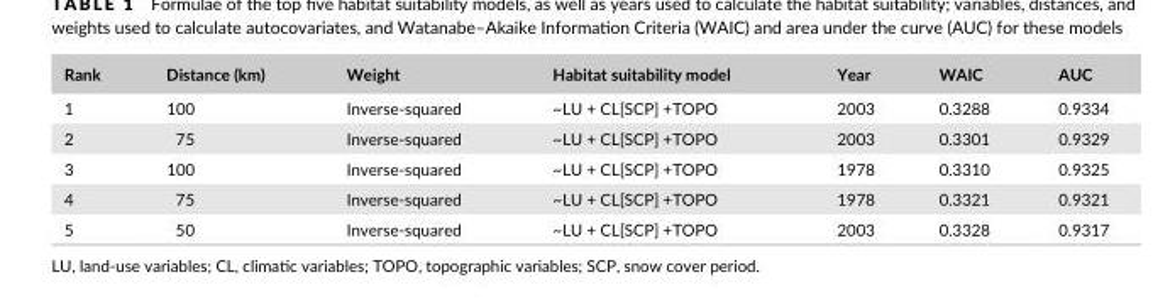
<table><thead><tr><td>Rank</td><td>Distance (km)</td><td>Weight</td><td>Habitat suitability model</td><td>Year</td><td>WAIC</td><td>AUC</td></tr></thead><tbody><tr><td>1</td><td>100</td><td>Inverse- squared</td><td>~LU + CL[SCP] +TOPO</td><td>2003</td><td>0.3288</td><td>0.9334</td></tr><tr><td>2</td><td>75</td><td>Inverse- squared</td><td>~LU + CL[SCP] +TOPO</td><td>2003</td><td>0.3301</td><td>0.9329</td></tr><tr><td>3</td><td>100</td><td>Inverse- squared</td><td>~LU + CL[SCP] +TOPO</td><td>1978</td><td>0.3310</td><td>0.9325</td></tr><tr><td>4</td><td>75</td><td>Inverse- squared</td><td>~LU + CL[SCP] +TOPO</td><td>1978</td><td>0.3321</td><td>0.9321</td></tr><tr><td>5</td><td>50</td><td>Inverse- squared</td><td>~LU + CL[SCP] +TOPO</td><td>2003</td><td>0.3328</td><td>0.9317</td></tr></tbody></table>